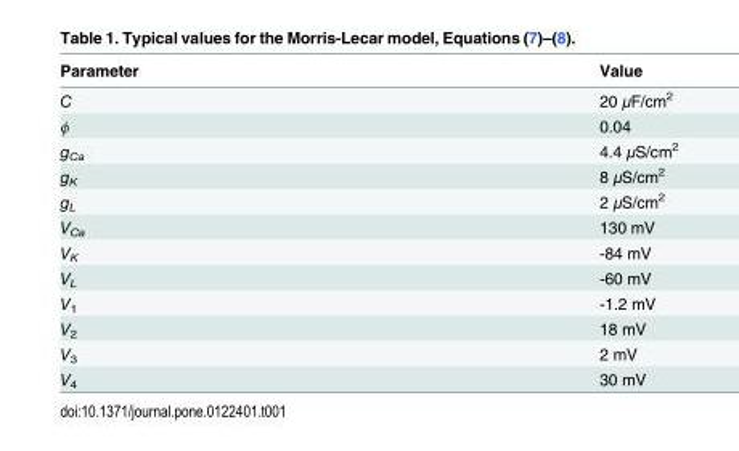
<table><thead><tr><td>Parameter</td><td>Value</td></tr></thead><tbody><tr><td>C</td><td>20 μF/cm<sup>2</sup></td></tr><tr><td>ϕ</td><td>0.04</td></tr><tr><td>g<sub>Ca</sub></td><td>4.4 μS/cm<sup>2</sup></td></tr><tr><td>g<sub>K</sub></td><td>8 μS/cm<sup>2</sup></td></tr><tr><td>g<sub>L</sub></td><td>2 μS/cm<sup>2</sup></td></tr><tr><td>V<sub>Ca</sub></td><td>130 mV</td></tr><tr><td>V<sub>K</sub></td><td>-84 mV</td></tr><tr><td>V<sub>L</sub></td><td>-60 mV</td></tr><tr><td>V<sub>1</sub></td><td>-1.2 mV</td></tr><tr><td>V<sub>2</sub></td><td>18 mV</td></tr><tr><td>V<sub>3</sub></td><td>2 mV</td></tr><tr><td>V<sub>4</sub></td><td>30 mV</td></tr></tbody></table>